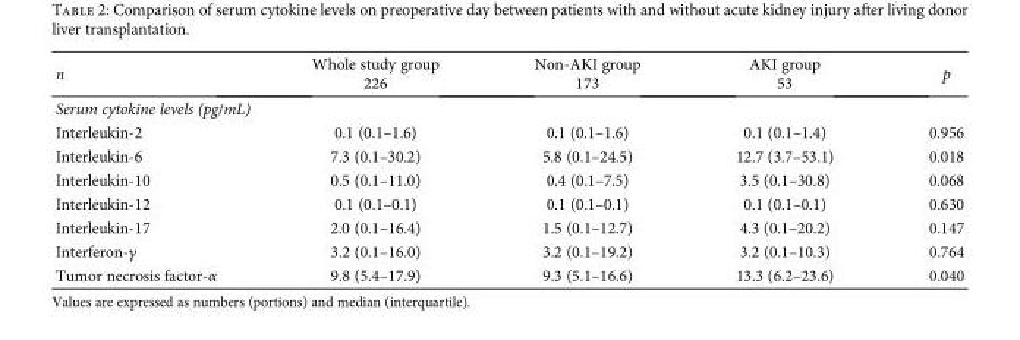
<table><thead><tr><td rowspan="2">n</td><td rowspan="2">Whole study group 226</td><td rowspan="2">Non-AKI group 173</td><td rowspan="2">AKI group 53</td><td rowspan="2">p</td></tr><tr></tr></thead><tbody><tr><td colspan="5">Serum cytokine levels (pg/mL)</td></tr><tr><td>Interleukin-2</td><td>0.1 (0.1–1.6)</td><td>0.1 (0.1–1.6)</td><td>0.1 (0.1–1.4)</td><td>0.956</td></tr><tr><td>Interleukin-6</td><td>7.3 (0.1–30.2)</td><td>5.8 (0.1–24.5)</td><td>12.7 (3.7–53.1)</td><td>0.018</td></tr><tr><td>Interleukin-10</td><td>0.5 (0.1–11.0)</td><td>0.4 (0.1–7.5)</td><td>3.5 (0.1–30.8)</td><td>0.068</td></tr><tr><td>Interleukin-12</td><td>0.1 (0.1–0.1)</td><td>0.1 (0.1–0.1)</td><td>0.1 (0.1–0.1)</td><td>0.630</td></tr><tr><td>Interleukin-17</td><td>2.0 (0.1–16.4)</td><td>1.5 (0.1–12.7)</td><td>4.3 (0.1–20.2)</td><td>0.147</td></tr><tr><td>Interferon-γ</td><td>3.2 (0.1–16.0)</td><td>3.2 (0.1–19.2)</td><td>3.2 (0.1–10.3)</td><td>0.764</td></tr><tr><td>Tumor necrosis factor-α</td><td>9.8 (5.4–17.9)</td><td>9.3 (5.1–16.6)</td><td>13.3 (6.2–23.6)</td><td>0.040</td></tr></tbody></table>